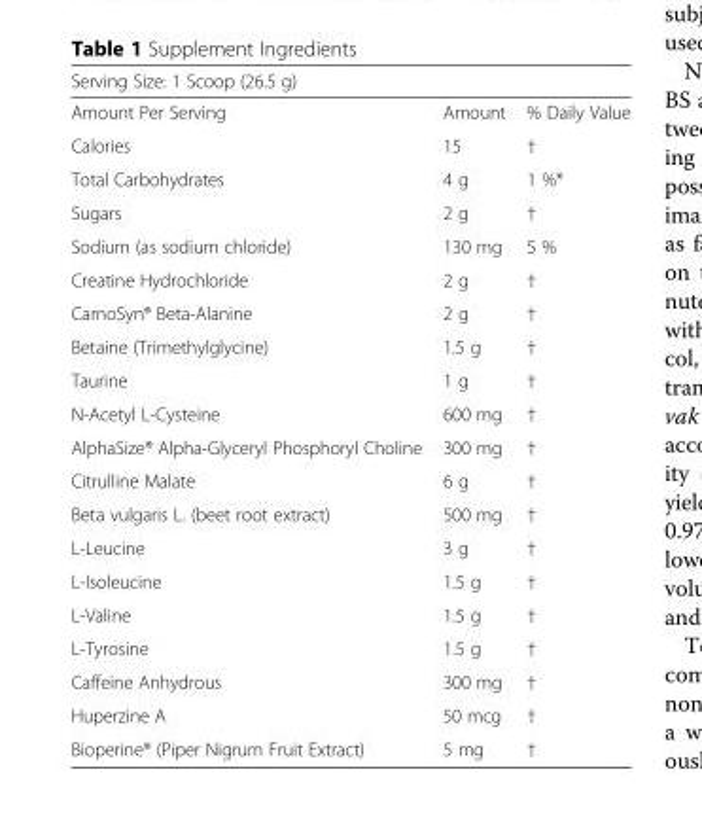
<table><thead><tr><td>Serving Size: 1 Scoop (26.5 g)</td><td></td><td></td></tr></thead><tbody><tr><td>Amount Per Serving</td><td>Amount</td><td>% Daily Value</td></tr><tr><td>Calories</td><td>15</td><td>†</td></tr><tr><td>Total Carbohydrates</td><td>4 g</td><td>1 %*</td></tr><tr><td>Sugars</td><td>2 g</td><td>†</td></tr><tr><td>Sodium (as sodium chloride)</td><td>130 mg</td><td>5 %</td></tr><tr><td>Creatine Hydrochloride</td><td>2 g</td><td>†</td></tr><tr><td>CarnoSyn® Beta-Alanine</td><td>2 g</td><td>†</td></tr><tr><td>Betaine (Trimethylglycine)</td><td>1.5 g</td><td>†</td></tr><tr><td>Taurine</td><td>1 g</td><td>†</td></tr><tr><td>N-Acetyl L-Cysteine</td><td>600 mg</td><td>†</td></tr><tr><td>AlphaSize® Alpha-Glyceryl Phosphoryl Choline</td><td>300 mg</td><td>†</td></tr><tr><td>Citrulline Malate</td><td>6 g</td><td>†</td></tr><tr><td>Beta vulgaris L. (beet root extract)</td><td>500 mg</td><td>†</td></tr><tr><td>L-Leucine</td><td>3 g</td><td>†</td></tr><tr><td>L-Isoleucine</td><td>1.5 g</td><td>†</td></tr><tr><td>L-Valine</td><td>1.5 g</td><td>†</td></tr><tr><td>L-Tyrosine</td><td>1.5 g</td><td>†</td></tr><tr><td>Caffeine Anhydrous</td><td>300 mg</td><td>†</td></tr><tr><td>Huperzine A</td><td>50 mcg</td><td>†</td></tr><tr><td>Bioperine® (Piper Nigrum Fruit Extract)</td><td>5 mg</td><td>†</td></tr></tbody></table>